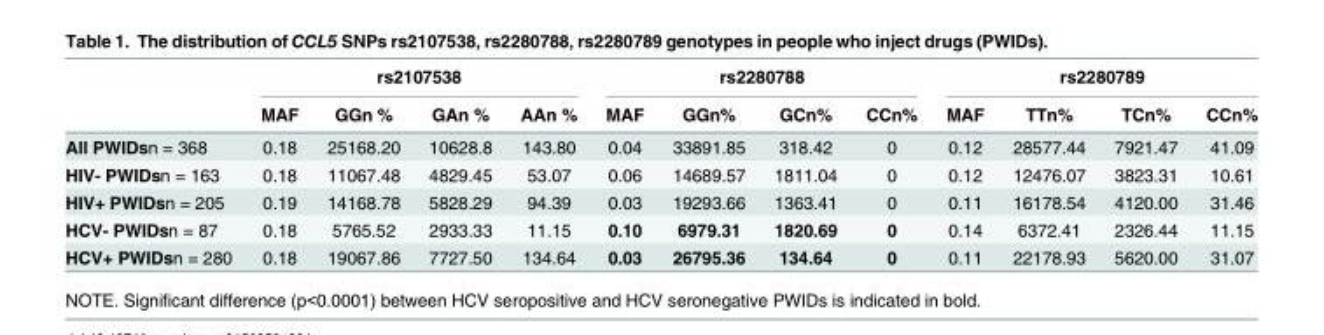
<table><thead><tr><td rowspan="2"></td><td colspan="4">rs2107538</td><td colspan="4">rs2280788</td><td colspan="4">rs2280789</td></tr><tr><td>MAF</td><td>GGn %</td><td>GAn %</td><td>AAn %</td><td>MAF</td><td>GGn%</td><td>GCn%</td><td>CCn%</td><td>MAF</td><td>TTn%</td><td>TCn%</td><td>CCn%</td></tr></thead><tbody><tr><td>All PWIDsn = 368</td><td>0.18</td><td>25168.20</td><td>10628.8</td><td>143.80</td><td>0.04</td><td>33891.85</td><td>318.42</td><td>0</td><td>0.12</td><td>28577.44</td><td>7921.47</td><td>41.09</td></tr><tr><td>HIV- PWIDsn = 163</td><td>0.18</td><td>11067.48</td><td>4829.45</td><td>53.07</td><td>0.06</td><td>14689.57</td><td>1811.04</td><td>0</td><td>0.12</td><td>12476.07</td><td>3823.31</td><td>10.61</td></tr><tr><td>HIV+ PWIDsn = 205</td><td>0.19</td><td>14168.78</td><td>5828.29</td><td>94.39</td><td>0.03</td><td>19293.66</td><td>1363.41</td><td>0</td><td>0.11</td><td>16178.54</td><td>4120.00</td><td>31.46</td></tr><tr><td>HCV- PWIDsn = 87</td><td>0.18</td><td>5765.52</td><td>2933.33</td><td>11.15</td><td>0.10</td><td>6979.31</td><td>1820.69</td><td>0</td><td>0.14</td><td>6372.41</td><td>2326.44</td><td>11.15</td></tr><tr><td>HCV+ PWIDsn = 280</td><td>0.18</td><td>19067.86</td><td>7727.50</td><td>134.64</td><td>0.03</td><td>26795.36</td><td>134.64</td><td>0</td><td>0.11</td><td>22178.93</td><td>5620.00</td><td>31.07</td></tr></tbody></table>